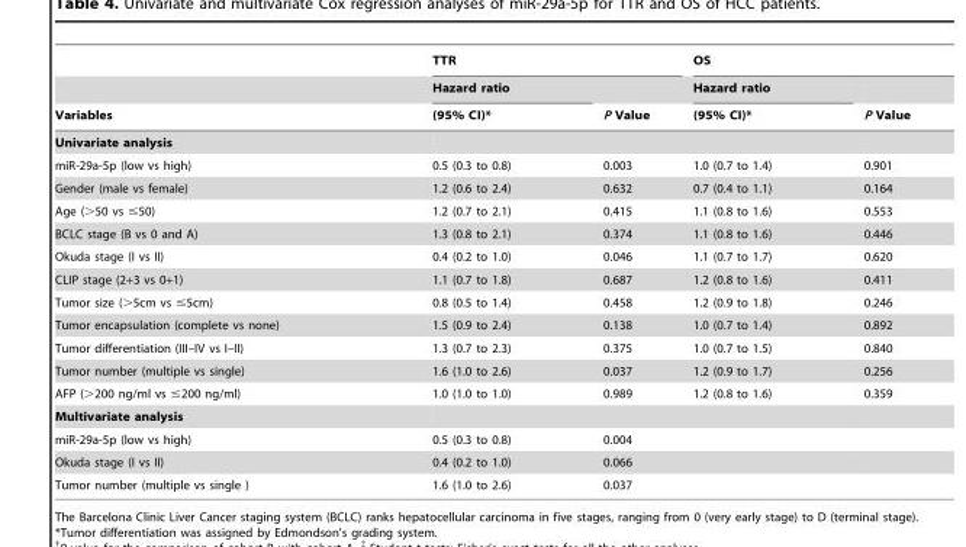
<table><thead><tr><td rowspan="3">Variables</td><td colspan="2">TTR</td><td colspan="2">OS</td></tr><tr><td rowspan="2">Hazard ratio (95% CI)*</td><td rowspan="2">P Value</td><td rowspan="2">Hazard ratio (95% CI)*</td><td rowspan="2">P Value</td></tr><tr></tr></thead><tbody><tr><td colspan="5">Univariate analysis</td></tr><tr><td>miR-29a-5p (low vs high)</td><td>0.5 (0.3 to 0.8)</td><td>0.003</td><td>1.0 (0.7 to 1.4)</td><td>0.901</td></tr><tr><td>Gender (male vs female)</td><td>1.2 (0.6 to 2.4)</td><td>0.632</td><td>0.7 (0.4 to 1.1)</td><td>0.164</td></tr><tr><td>Age (&gt;50 vs ≤50)</td><td>1.2 (0.7 to 2.1)</td><td>0.415</td><td>1.1 (0.8 to 1.6)</td><td>0.553</td></tr><tr><td>BCLC stage (B vs 0 and A)</td><td>1.3 (0.8 to 2.1)</td><td>0.374</td><td>1.1 (0.8 to 1.6)</td><td>0.446</td></tr><tr><td>Okuda stage (I vs II)</td><td>0.4 (0.2 to 1.0)</td><td>0.046</td><td>1.1 (0.7 to 1.7)</td><td>0.620</td></tr><tr><td>CLIP stage (2+3 vs 0+1)</td><td>1.1 (0.7 to 1.8)</td><td>0.687</td><td>1.2 (0.8 to 1.6)</td><td>0.411</td></tr><tr><td>Tumor size (&gt;5cm vs ≤5cm)</td><td>0.8 (0.5 to 1.4)</td><td>0.458</td><td>1.2 (0.9 to 1.8)</td><td>0.246</td></tr><tr><td>Tumor encapsulation (complete vs none)</td><td>1.5 (0.9 to 2.4)</td><td>0.138</td><td>1.0 (0.7 to 1.4)</td><td>0.892</td></tr><tr><td>Tumor differentiation (III–IV vs I–II)</td><td>1.3 (0.7 to 2.3)</td><td>0.375</td><td>1.0 (0.7 to 1.5)</td><td>0.840</td></tr><tr><td>Tumor number (multiple vs single)</td><td>1.6 (1.0 to 2.6)</td><td>0.037</td><td>1.2 (0.9 to 1.7)</td><td>0.256</td></tr><tr><td>AFP (&gt;200 ng/ml vs ≤200 ng/ml)</td><td>1.0 (1.0 to 1.0)</td><td>0.989</td><td>1.2 (0.8 to 1.6)</td><td>0.359</td></tr><tr><td colspan="5">Multivariate analysis</td></tr><tr><td>miR-29a-5p (low vs high)</td><td>0.5 (0.3 to 0.8)</td><td>0.004</td><td></td><td></td></tr><tr><td>Okuda stage (I vs II)</td><td>0.4 (0.2 to 1.0)</td><td>0.066</td><td></td><td></td></tr><tr><td>Tumor number (multiple vs single )</td><td>1.6 (1.0 to 2.6)</td><td>0.037</td><td></td><td></td></tr></tbody></table>